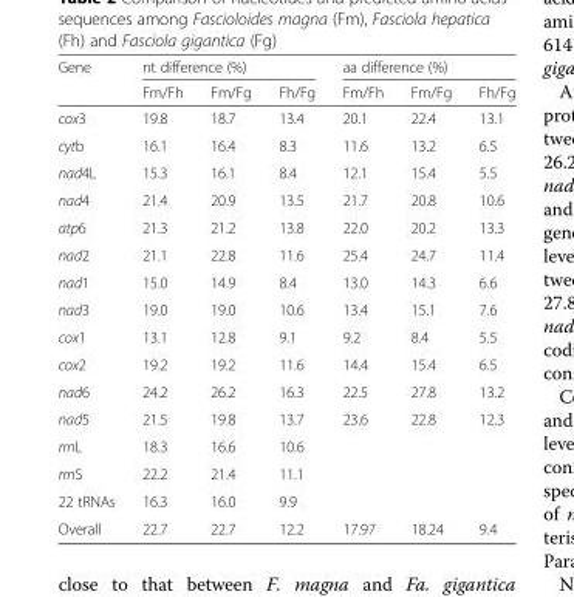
<table><thead><tr><td rowspan="2">Gene</td><td colspan="3">nt difference (%)</td><td colspan="3">aa difference (%)</td></tr><tr><td>Fm/Fh</td><td>Fm/Fg</td><td>Fh/Fg</td><td>Fm/Fh</td><td>Fm/Fg</td><td>Fh/Fg</td></tr></thead><tbody><tr><td>cox3</td><td>19.8</td><td>18.7</td><td>13.4</td><td>20.1</td><td>22.4</td><td>13.1</td></tr><tr><td>cytb</td><td>16.1</td><td>16.4</td><td>8.3</td><td>11.6</td><td>13.2</td><td>6.5</td></tr><tr><td>nad4L</td><td>15.3</td><td>16.1</td><td>8.4</td><td>12.1</td><td>15.4</td><td>5.5</td></tr><tr><td>nad4</td><td>21.4</td><td>20.9</td><td>13.5</td><td>21.7</td><td>20.8</td><td>10.6</td></tr><tr><td>atp6</td><td>21.3</td><td>21.2</td><td>13.8</td><td>22.0</td><td>20.2</td><td>13.3</td></tr><tr><td>nad2</td><td>21.1</td><td>22.8</td><td>11.6</td><td>25.4</td><td>24.7</td><td>11.4</td></tr><tr><td>nad1</td><td>15.0</td><td>14.9</td><td>8.4</td><td>13.0</td><td>14.3</td><td>6.6</td></tr><tr><td>nad3</td><td>19.0</td><td>19.0</td><td>10.6</td><td>13.4</td><td>15.1</td><td>7.6</td></tr><tr><td>cox1</td><td>13.1</td><td>12.8</td><td>9.1</td><td>9.2</td><td>8.4</td><td>5.5</td></tr><tr><td>cox2</td><td>19.2</td><td>19.2</td><td>11.6</td><td>14.4</td><td>15.4</td><td>6.5</td></tr><tr><td>nad6</td><td>24.2</td><td>26.2</td><td>16.3</td><td>22.5</td><td>27.8</td><td>13.2</td></tr><tr><td>nad5</td><td>21.5</td><td>19.8</td><td>13.7</td><td>23.6</td><td>22.8</td><td>12.3</td></tr><tr><td>rrnL</td><td>18.3</td><td>16.6</td><td>10.6</td><td></td><td></td><td></td></tr><tr><td>rrnS</td><td>22.2</td><td>21.4</td><td>11.1</td><td></td><td></td><td></td></tr><tr><td>22 tRNAs</td><td>16.3</td><td>16.0</td><td>9.9</td><td></td><td></td><td></td></tr><tr><td>Overall</td><td>22.7</td><td>22.7</td><td>12.2</td><td>17.97</td><td>18.24</td><td>9.4</td></tr></tbody></table>